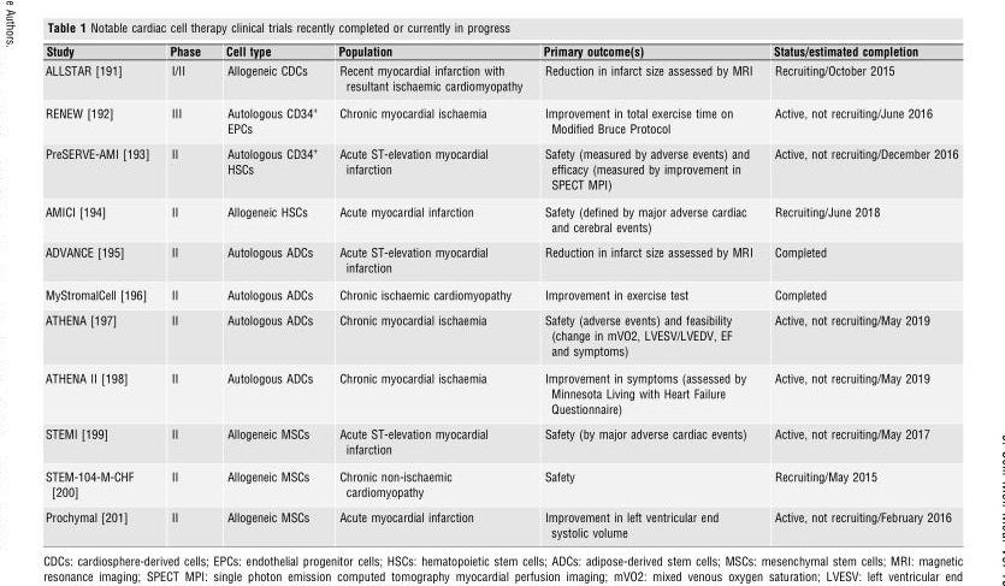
<table><thead><tr><td>Study</td><td>Phase</td><td>Cell type</td><td>Population</td><td>Primary outcome(s)</td><td>Status/estimated completion</td></tr></thead><tbody><tr><td>ALLSTAR [191]</td><td>I/II</td><td>Allogeneic CDCs</td><td>Recent myocardial infarction with resultant ischaemic cardiomyopathy</td><td>Reduction in infarct size assessed by MRI</td><td>Recruiting/October 2015</td></tr><tr><td>RENEW [192]</td><td>III</td><td>Autologous CD34<sup>+</sup> EPCs</td><td>Chronic myocardial ischaemia</td><td>Improvement in total exercise time on Modified Bruce Protocol</td><td>Active, not recruiting/June 2016</td></tr><tr><td>PreSERVE-AMI [193]</td><td>II</td><td>Autologous CD34<sup>+</sup> HSCs</td><td>Acute ST-elevation myocardial infarction</td><td>Safety (measured by adverse events) and efficacy (measured by improvement in SPECT MPI)</td><td>Active, not recruiting/December 2016</td></tr><tr><td>AMICI [194]</td><td>II</td><td>Allogeneic HSCs</td><td>Acute myocardial infarction</td><td>Safety (defined by major adverse cardiac and cerebral events)</td><td>Recruiting/June 2018</td></tr><tr><td>ADVANCE [195]</td><td>II</td><td>Autologous ADCs</td><td>Acute ST-elevation myocardial infarction</td><td>Reduction in infarct size assessed by MRI</td><td>Completed</td></tr><tr><td>MyStromalCell [196]</td><td>II</td><td>Autologous ADCs</td><td>Chronic ischaemic cardiomyopathy</td><td>Improvement in exercise test</td><td>Completed</td></tr><tr><td>ATHENA [197]</td><td>II</td><td>Autologous ADCs</td><td>Chronic myocardial ischaemia</td><td>Safety (adverse events) and feasibility (change in mVO2, LVESV/LVEDV, EF and symptoms)</td><td>Active, not recruiting/May 2019</td></tr><tr><td>ATHENA II [198]</td><td>II</td><td>Autologous ADCs</td><td>Chronic myocardial ischaemia</td><td>Improvement in symptoms (assessed by Minnesota Living with Heart Failure Questionnaire)</td><td>Active, not recruiting/May 2019</td></tr><tr><td>STEMI [199]</td><td>II</td><td>Allogeneic MSCs</td><td>Acute ST-elevation myocardial infarction</td><td>Safety (by major adverse cardiac events)</td><td>Active, not recruiting/May 2017</td></tr><tr><td>STEM-104-M-CHF [200]</td><td>II</td><td>Allogeneic MSCs</td><td>Chronic non-ischaemic cardiomyopathy</td><td>Safety</td><td>Recruiting/May 2015</td></tr><tr><td>Prochymal [201]</td><td>II</td><td>Allogeneic MSCs</td><td>Acute myocardial infarction</td><td>Improvement in left ventricular end systolic volume</td><td>Active, not recruiting/February 2016</td></tr></tbody></table>